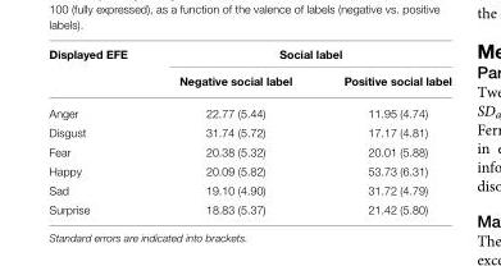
<table><thead><tr><td rowspan="2">Displayed EFE</td><td colspan="2">Social label</td></tr><tr><td>Negative social label</td><td>Positive social label</td></tr></thead><tbody><tr><td>Anger</td><td>22.77 (5.44)</td><td>11.95 (4.74)</td></tr><tr><td>Disgust</td><td>31.74 (5.72)</td><td>17.17 (4.81)</td></tr><tr><td>Fear</td><td>20.38 (5.32)</td><td>20.01 (5.88)</td></tr><tr><td>Happy</td><td>20.09 (5.82)</td><td>53.73 (6.31)</td></tr><tr><td>Sad</td><td>19.10 (4.90)</td><td>31.72 (4.79)</td></tr><tr><td>Surprise</td><td>18.83 (5.37)</td><td>21.42 (5.80)</td></tr></tbody></table>